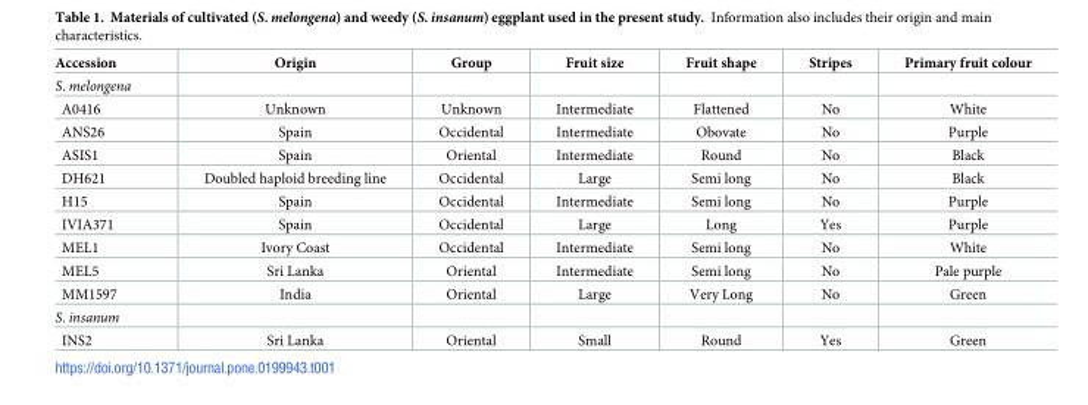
<table><thead><tr><td>Accession</td><td>Origin</td><td>Group</td><td>Fruit size</td><td>Fruit shape</td><td>Stripes</td><td>Primary fruit colour</td></tr></thead><tbody><tr><td colspan="7">S. melongena</td></tr><tr><td>A0416</td><td>Unknown</td><td>Unknown</td><td>Intermediate</td><td>Flattened</td><td>No</td><td>White</td></tr><tr><td>ANS26</td><td>Spain</td><td>Occidental</td><td>Intermediate</td><td>Obovate</td><td>No</td><td>Purple</td></tr><tr><td>ASIS1</td><td>Spain</td><td>Oriental</td><td>Intermediate</td><td>Round</td><td>No</td><td>Black</td></tr><tr><td>DH621</td><td>Doubled haploid breeding line</td><td>Occidental</td><td>Large</td><td>Semi long</td><td>No</td><td>Black</td></tr><tr><td>H15</td><td>Spain</td><td>Occidental</td><td>Intermediate</td><td>Semi long</td><td>No</td><td>Purple</td></tr><tr><td>IVIA371</td><td>Spain</td><td>Occidental</td><td>Large</td><td>Long</td><td>Yes</td><td>Purple</td></tr><tr><td>MEL1</td><td>Ivory Coast</td><td>Occidental</td><td>Intermediate</td><td>Semi long</td><td>No</td><td>White</td></tr><tr><td>MEL5</td><td>Sri Lanka</td><td>Oriental</td><td>Intermediate</td><td>Semi long</td><td>No</td><td>Pale purple</td></tr><tr><td>MM1597</td><td>India</td><td>Oriental</td><td>Large</td><td>Very Long</td><td>No</td><td>Green</td></tr><tr><td colspan="7">S. insanum</td></tr><tr><td>INS2</td><td>Sri Lanka</td><td>Oriental</td><td>Small</td><td>Round</td><td>Yes</td><td>Green</td></tr></tbody></table>